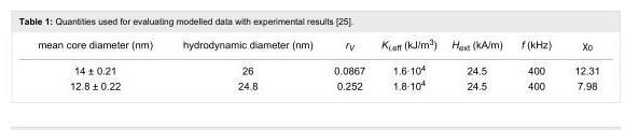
<table><tbody><tr><td>mean core diameter (nm)</td><td>hydrodynamic diameter (nm)</td><td>r<sub>V</sub></td><td>K<sub>i,eff</sub> (kJ/m<sup>3</sup>)</td><td>H<sub>ext</sub> (kA/m)</td><td>f (kHz)</td><td>χ<sub>0</sub></td></tr><tr><td>14 ± 0.21</td><td>26</td><td>0.0867</td><td>1.6·10<sup>4</sup></td><td>24.5</td><td>400</td><td>12.31</td></tr><tr><td>12.8 ± 0.22</td><td>24.8</td><td>0.252</td><td>1.8·10<sup>4</sup></td><td>24.5</td><td>400</td><td>7.98</td></tr></tbody></table>